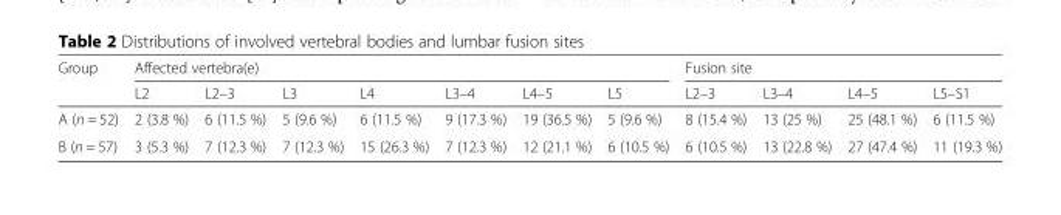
<table><thead><tr><td rowspan="2">Group</td><td colspan="7">Affected vertebra(e)</td><td colspan="4">Fusion site</td></tr><tr><td>L2</td><td>L2–3</td><td>L3</td><td>L4</td><td>L3–4</td><td>L4–5</td><td>L5</td><td>L2–3</td><td>L3–4</td><td>L4–5</td><td>L5–S1</td></tr></thead><tbody><tr><td>A (n = 52)</td><td>2 (3.8 %)</td><td>6 (11.5 %)</td><td>5 (9.6 %)</td><td>6 (11.5 %)</td><td>9 (17.3 %)</td><td>19 (36.5 %)</td><td>5 (9.6 %)</td><td>8 (15.4 %)</td><td>13 (25 %)</td><td>25 (48.1 %)</td><td>6 (11.5 %)</td></tr><tr><td>B (n = 57)</td><td>3 (5.3 %)</td><td>7 (12.3 %)</td><td>7 (12.3 %)</td><td>15 (26.3 %)</td><td>7 (12.3 %)</td><td>12 (21.1 %)</td><td>6 (10.5 %)</td><td>6 (10.5 %)</td><td>13 (22.8 %)</td><td>27 (47.4 %)</td><td>11 (19.3 %)</td></tr></tbody></table>